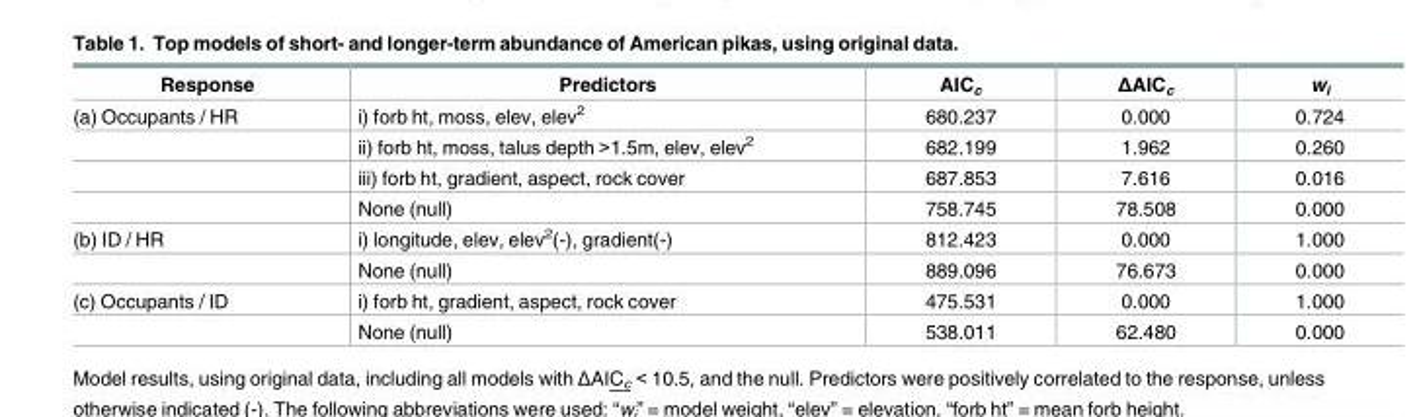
<table><thead><tr><td>Response</td><td>Predictors</td><td>AIC<sub>c</sub></td><td>ΔAIC<sub>c</sub></td><td>w<sub>i</sub></td></tr></thead><tbody><tr><td rowspan="4">(a) Occupants / HR</td><td>i) forb ht, moss, elev, elev<sup>2</sup></td><td>680.237</td><td>0.000</td><td>0.724</td></tr><tr><td>ii) forb ht, moss, talus depth &gt;1.5m, elev, elev<sup>2</sup></td><td>682.199</td><td>1.962</td><td>0.260</td></tr><tr><td>iii) forb ht, gradient, aspect, rock cover</td><td>687.853</td><td>7.616</td><td>0.016</td></tr><tr><td>None (null)</td><td>758.745</td><td>78.508</td><td>0.000</td></tr><tr><td rowspan="2">(b) ID / HR</td><td>i) longitude, elev, elev<sup>2</sup>(-), gradient(-)</td><td>812.423</td><td>0.000</td><td>1.000</td></tr><tr><td>None (null)</td><td>889.096</td><td>76.673</td><td>0.000</td></tr><tr><td rowspan="2">(c) Occupants / ID</td><td>i) forb ht, gradient, aspect, rock cover</td><td>475.531</td><td>0.000</td><td>1.000</td></tr><tr><td>None (null)</td><td>538.011</td><td>62.480</td><td>0.000</td></tr></tbody></table>